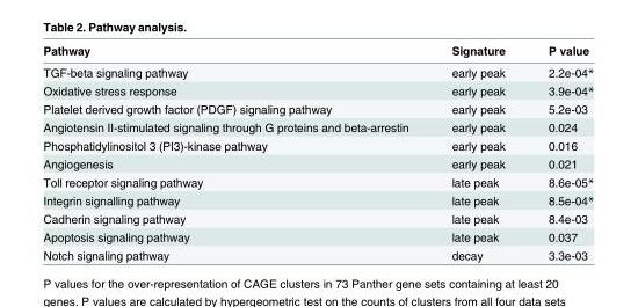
<table><thead><tr><td>Pathway</td><td>Signature</td><td>P value</td></tr></thead><tbody><tr><td>TGF-beta signaling pathway</td><td>early peak</td><td>2.2e-04*</td></tr><tr><td>Oxidative stress response</td><td>early peak</td><td>3.9e-04*</td></tr><tr><td>Platelet derived growth factor (PDGF) signaling pathway</td><td>early peak</td><td>5.2e-03</td></tr><tr><td>Angiotensin II-stimulated signaling through G proteins and beta-arrestin</td><td>early peak</td><td>0.024</td></tr><tr><td>Phosphatidylinositol 3 (PI3)-kinase pathway</td><td>early peak</td><td>0.016</td></tr><tr><td>Angiogenesis</td><td>early peak</td><td>0.021</td></tr><tr><td>Toll receptor signaling pathway</td><td>late peak</td><td>8.6e-05*</td></tr><tr><td>Integrin signalling pathway</td><td>late peak</td><td>8.5e-04*</td></tr><tr><td>Cadherin signaling pathway</td><td>late peak</td><td>8.4e-03</td></tr><tr><td>Apoptosis signaling pathway</td><td>late peak</td><td>0.037</td></tr><tr><td>Notch signaling pathway</td><td>decay</td><td>3.3e-03</td></tr></tbody></table>